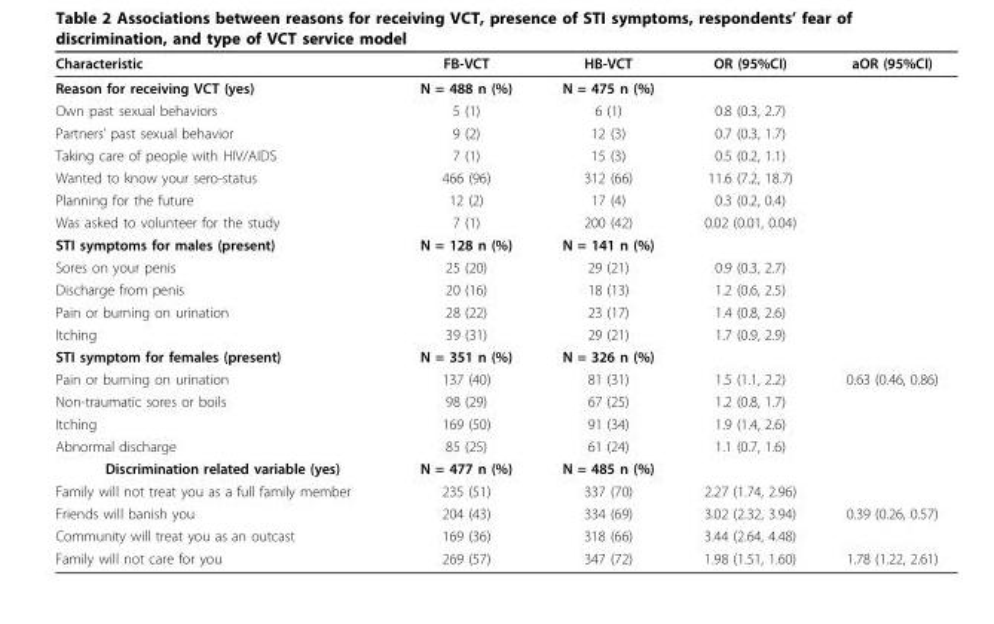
<table><thead><tr><td>Characteristic</td><td>FB-VCT</td><td>HB-VCT</td><td>OR (95%CI)</td><td>aOR (95%CI)</td></tr></thead><tbody><tr><td>Reason for receiving VCT (yes)</td><td>N = 488 n (%)</td><td>N = 475 n (%)</td><td></td><td></td></tr><tr><td>Own past sexual behaviors</td><td>5 (1)</td><td>6 (1)</td><td>0.8 (0.3, 2.7)</td><td></td></tr><tr><td>Partners’ past sexual behavior</td><td>9 (2)</td><td>12 (3)</td><td>0.7 (0.3, 1.7)</td><td></td></tr><tr><td>Taking care of people with HIV/AIDS</td><td>7 (1)</td><td>15 (3)</td><td>0.5 (0.2, 1.1)</td><td></td></tr><tr><td>Wanted to know your sero-status</td><td>466 (96)</td><td>312 (66)</td><td>11.6 (7.2, 18.7)</td><td></td></tr><tr><td>Planning for the future</td><td>12 (2)</td><td>17 (4)</td><td>0.3 (0.2, 0.4)</td><td></td></tr><tr><td>Was asked to volunteer for the study</td><td>7 (1)</td><td>200 (42)</td><td>0.02 (0.01, 0.04)</td><td></td></tr><tr><td>STI symptoms for males (present)</td><td>N = 128 n (%)</td><td>N = 141 n (%)</td><td></td><td></td></tr><tr><td>Sores on your penis</td><td>25 (20)</td><td>29 (21)</td><td>0.9 (0.3, 2.7)</td><td></td></tr><tr><td>Discharge from penis</td><td>20 (16)</td><td>18 (13)</td><td>1.2 (0.6, 2.5)</td><td></td></tr><tr><td>Pain or burning on urination</td><td>28 (22)</td><td>23 (17)</td><td>1.4 (0.8, 2.6)</td><td></td></tr><tr><td>Itching</td><td>39 (31)</td><td>29 (21)</td><td>1.7 (0.9, 2.9)</td><td></td></tr><tr><td>STI symptom for females (present)</td><td>N = 351 n (%)</td><td>N = 326 n (%)</td><td></td><td></td></tr><tr><td>Pain or burning on urination</td><td>137 (40)</td><td>81 (31)</td><td>1.5 (1.1, 2.2)</td><td>0.63 (0.46, 0.86)</td></tr><tr><td>Non-traumatic sores or boils</td><td>98 (29)</td><td>67 (25)</td><td>1.2 (0.8, 1.7)</td><td></td></tr><tr><td>Itching</td><td>169 (50)</td><td>91 (34)</td><td>1.9 (1.4, 2.6)</td><td></td></tr><tr><td>Abnormal discharge</td><td>85 (25)</td><td>61 (24)</td><td>1.1 (0.7, 1.6)</td><td></td></tr><tr><td>Discrimination related variable (yes)</td><td>N = 477 n (%)</td><td>N = 485 n (%)</td><td></td><td></td></tr><tr><td>Family will not treat you as a full family member</td><td>235 (51)</td><td>337 (70)</td><td>2.27 (1.74, 2.96)</td><td></td></tr><tr><td>Friends will banish you</td><td>204 (43)</td><td>334 (69)</td><td>3.02 (2.32, 3.94)</td><td>0.39 (0.26, 0.57)</td></tr><tr><td>Community will treat you as an outcast</td><td>169 (36)</td><td>318 (66)</td><td>3.44 (2.64, 4.48)</td><td></td></tr><tr><td>Family will not care for you</td><td>269 (57)</td><td>347 (72)</td><td>1.98 (1.51, 1.60)</td><td>1.78 (1.22, 2.61)</td></tr></tbody></table>